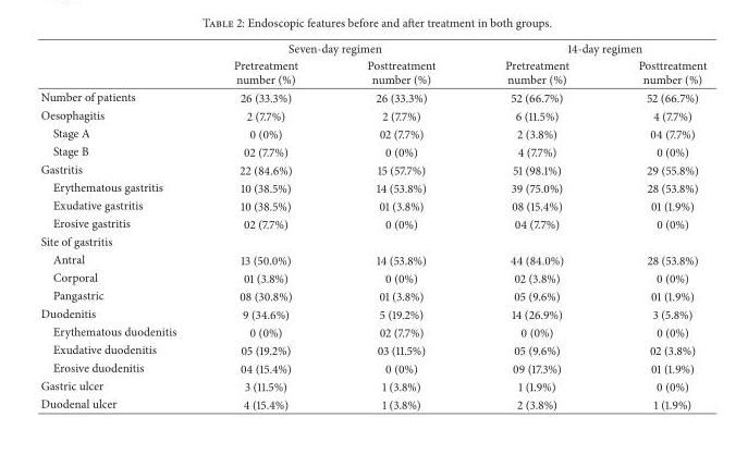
<table><thead><tr><td rowspan="2"></td><td colspan="2">Seven-day regimen</td><td colspan="2">14-day regimen</td></tr><tr><td>Pretreatment number (%)</td><td>Posttreatment number (%)</td><td>Pretreatment number (%)</td><td>Posttreatment number (%)</td></tr></thead><tbody><tr><td>Number of patients</td><td>26 (33.3%)</td><td>26 (33.3%)</td><td>52 (66.7%)</td><td>52 (66.7%)</td></tr><tr><td>Oesophagitis</td><td>2 (7.7%)</td><td>2 (7.7%)</td><td>6 (11.5%)</td><td>4 (7.7%)</td></tr><tr><td>Stage A</td><td>0 (0%)</td><td>02 (7.7%)</td><td>2 (3.8%)</td><td>04 (7.7%)</td></tr><tr><td>Stage B</td><td>02 (7.7%)</td><td>0 (0%)</td><td>4 (7.7%)</td><td>0 (0%)</td></tr><tr><td>Gastritis</td><td>22 (84.6%)</td><td>15 (57.7%)</td><td>51 (98.1%)</td><td>29 (55.8%)</td></tr><tr><td>Erythematous gastritis</td><td>10 (38.5%)</td><td>14 (53.8%)</td><td>39 (75.0%)</td><td>28 (53.8%)</td></tr><tr><td>Exudative gastritis</td><td>10 (38.5%)</td><td>01 (3.8%)</td><td>08 (15.4%)</td><td>01 (1.9%)</td></tr><tr><td>Erosive gastritis</td><td>02 (7.7%)</td><td>0 (0%)</td><td>04 (7.7%)</td><td>0 (0%)</td></tr><tr><td colspan="5">Site of gastritis</td></tr><tr><td>Antral</td><td>13 (50.0%)</td><td>14 (53.8%)</td><td>44 (84.0%)</td><td>28 (53.8%)</td></tr><tr><td>Corporal</td><td>01 (3.8%)</td><td>0 (0%)</td><td>02 (3.8%)</td><td>0 (0%)</td></tr><tr><td>Pangastric</td><td>08 (30.8%)</td><td>01 (3.8%)</td><td>05 (9.6%)</td><td>01 (1.9%)</td></tr><tr><td>Duodenitis</td><td>9 (34.6%)</td><td>5 (19.2%)</td><td>14 (26.9%)</td><td>3 (5.8%)</td></tr><tr><td>Erythematous duodenitis</td><td>0 (0%)</td><td>02 (7.7%)</td><td>0 (0%)</td><td>0 (0%)</td></tr><tr><td>Exudative duodenitis</td><td>05 (19.2%)</td><td>03 (11.5%)</td><td>05 (9.6%)</td><td>02 (3.8%)</td></tr><tr><td>Erosive duodenitis</td><td>04 (15.4%)</td><td>0 (0%)</td><td>09 (17.3%)</td><td>01 (1.9%)</td></tr><tr><td>Gastric ulcer</td><td>3 (11.5%)</td><td>1 (3.8%)</td><td>1 (1.9%)</td><td>0 (0%)</td></tr><tr><td>Duodenal ulcer</td><td>4 (15.4%)</td><td>1 (3.8%)</td><td>2 (3.8%)</td><td>1 (1.9%)</td></tr></tbody></table>